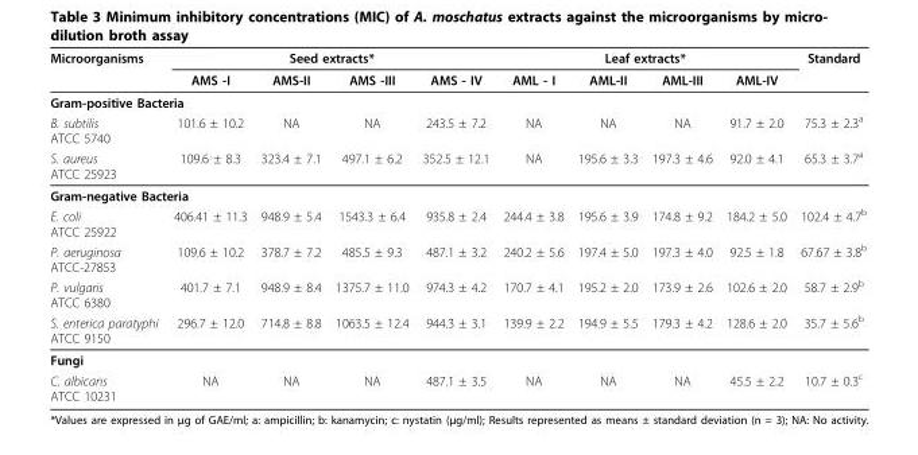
<table><thead><tr><td rowspan="2">Microorganisms</td><td colspan="4">Seed extracts*</td><td colspan="4">Leaf extracts*</td><td rowspan="2">Standard</td></tr><tr><td>AMS -I</td><td>AMS-II</td><td>AMS -III</td><td>AMS - IV</td><td>AML - I</td><td>AML-II</td><td>AML-III</td><td>AML-IV</td></tr></thead><tbody><tr><td colspan="10">Gram-positive Bacteria</td></tr><tr><td>B. subtilis ATCC 5740</td><td>101.6 ± 10.2</td><td>NA</td><td>NA</td><td>243.5 ± 7.2</td><td>NA</td><td>NA</td><td>NA</td><td>91.7 ± 2.0</td><td>75.3 ± 2.3<sup>a</sup></td></tr><tr><td>S. aureus ATCC 25923</td><td>109.6 ± 8.3</td><td>323.4 ± 7.1</td><td>497.1 ± 6.2</td><td>352.5 ± 12.1</td><td>NA</td><td>195.6 ± 3.3</td><td>197.3 ± 4.6</td><td>92.0 ± 4.1</td><td>65.3 ± 3.7<sup>a</sup></td></tr><tr><td colspan="10">Gram-negative Bacteria</td></tr><tr><td>E. coli ATCC 25922</td><td>406.41 ± 11.3</td><td>948.9 ± 5.4</td><td>1543.3 ± 6.4</td><td>935.8 ± 2.4</td><td>244.4 ± 3.8</td><td>195.6 ± 3.9</td><td>174.8 ± 9.2</td><td>184.2 ± 5.0</td><td>102.4 ± 4.7<sup>b</sup></td></tr><tr><td>P. aeruginosa ATCC-27853</td><td>109.6 ± 10.2</td><td>378.7 ± 7.2</td><td>485.5 ± 9.3</td><td>487.1 ± 3.2</td><td>240.2 ± 5.6</td><td>197.4 ± 5.0</td><td>197.3 ± 4.0</td><td>92.5 ± 1.8</td><td>67.67 ± 3.8<sup>b</sup></td></tr><tr><td>P. vulgaris ATCC 6380</td><td>401.7 ± 7.1</td><td>948.9 ± 8.4</td><td>1375.7 ± 11.0</td><td>974.3 ± 4.2</td><td>170.7 ± 4.1</td><td>195.2 ± 2.0</td><td>173.9 ± 2.6</td><td>102.6 ± 2.0</td><td>58.7 ± 2.9<sup>b</sup></td></tr><tr><td>S. enterica paratyphi ATCC 9150</td><td>296.7 ± 12.0</td><td>714.8 ± 8.8</td><td>1063.5 ± 12.4</td><td>944.3 ± 3.1</td><td>139.9 ± 2.2</td><td>194.9 ± 5.5</td><td>179.3 ± 4.2</td><td>128.6 ± 2.0</td><td>35.7 ± 5.6<sup>b</sup></td></tr><tr><td colspan="10">Fungi</td></tr><tr><td>C. albicans ATCC 10231</td><td>NA</td><td>NA</td><td>NA</td><td>487.1 ± 3.5</td><td>NA</td><td>NA</td><td>NA</td><td>45.5 ± 2.2</td><td>10.7 ± 0.3<sup>c</sup></td></tr></tbody></table>